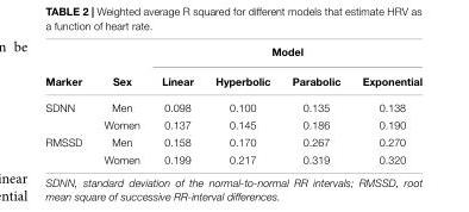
<table><thead><tr><td rowspan="2">Marker</td><td rowspan="2">Sex</td><td colspan="4">Model</td></tr><tr><td>Linear</td><td>Hyperbolic</td><td>Parabolic</td><td>Exponential</td></tr></thead><tbody><tr><td rowspan="2">SDNN</td><td>Men</td><td>0.098</td><td>0.100</td><td>0.135</td><td>0.138</td></tr><tr><td>Women</td><td>0.137</td><td>0.145</td><td>0.186</td><td>0.190</td></tr><tr><td rowspan="2">RMSSD</td><td>Men</td><td>0.158</td><td>0.170</td><td>0.267</td><td>0.270</td></tr><tr><td>Women</td><td>0.199</td><td>0.217</td><td>0.319</td><td>0.320</td></tr></tbody></table>